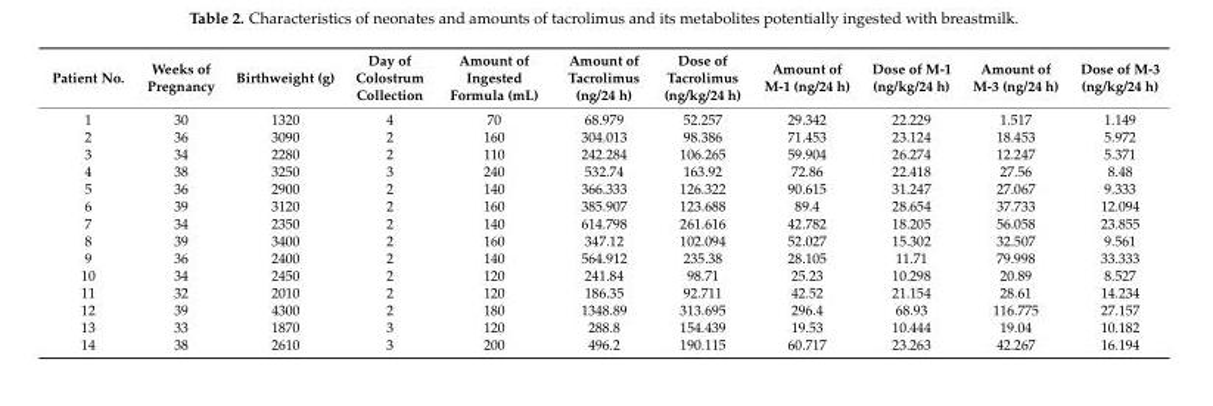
<table><thead><tr><td>Patient No.</td><td>Weeks of Pregnancy</td><td>Birthweight (g)</td><td>Day of Colostrum Collection</td><td>Amount of Ingested Formula (mL)</td><td>Amount of Tacrolimus (ng/24 h)</td><td>Dose of Tacrolimus (ng/kg/24 h)</td><td>Amount of M-1 (ng/24 h)</td><td>Dose of M-1 (ng/kg/24 h)</td><td>Amount of M-3 (ng/24 h)</td><td>Dose of M-3 (ng/kg/24 h)</td></tr></thead><tbody><tr><td>1</td><td>30</td><td>1320</td><td>4</td><td>70</td><td>68.979</td><td>52.257</td><td>29.342</td><td>22.229</td><td>1.517</td><td>1.149</td></tr><tr><td>2</td><td>36</td><td>3090</td><td>2</td><td>160</td><td>304.013</td><td>98.386</td><td>71.453</td><td>23.124</td><td>18.453</td><td>5.972</td></tr><tr><td>3</td><td>34</td><td>2280</td><td>2</td><td>110</td><td>242.284</td><td>106.265</td><td>59.904</td><td>26.274</td><td>12.247</td><td>5.371</td></tr><tr><td>4</td><td>38</td><td>3250</td><td>3</td><td>240</td><td>532.74</td><td>163.92</td><td>72.86</td><td>22.418</td><td>27.56</td><td>8.48</td></tr><tr><td>5</td><td>36</td><td>2900</td><td>2</td><td>140</td><td>366.333</td><td>126.322</td><td>90.615</td><td>31.247</td><td>27.067</td><td>9.333</td></tr><tr><td>6</td><td>39</td><td>3120</td><td>2</td><td>160</td><td>385.907</td><td>123.688</td><td>89.4</td><td>28.654</td><td>37.733</td><td>12.094</td></tr><tr><td>7</td><td>34</td><td>2350</td><td>2</td><td>140</td><td>614.798</td><td>261.616</td><td>42.782</td><td>18.205</td><td>56.058</td><td>23.855</td></tr><tr><td>8</td><td>39</td><td>3400</td><td>2</td><td>160</td><td>347.12</td><td>102.094</td><td>52.027</td><td>15.302</td><td>32.507</td><td>9.561</td></tr><tr><td>9</td><td>36</td><td>2400</td><td>2</td><td>140</td><td>564.912</td><td>235.38</td><td>28.105</td><td>11.71</td><td>79.998</td><td>33.333</td></tr><tr><td>10</td><td>34</td><td>2450</td><td>2</td><td>120</td><td>241.84</td><td>98.71</td><td>25.23</td><td>10.298</td><td>20.89</td><td>8.527</td></tr><tr><td>11</td><td>32</td><td>2010</td><td>2</td><td>120</td><td>186.35</td><td>92.711</td><td>42.52</td><td>21.154</td><td>28.61</td><td>14.234</td></tr><tr><td>12</td><td>39</td><td>4300</td><td>2</td><td>180</td><td>1348.89</td><td>313.695</td><td>296.4</td><td>68.93</td><td>116.775</td><td>27.157</td></tr><tr><td>13</td><td>33</td><td>1870</td><td>3</td><td>120</td><td>288.8</td><td>154.439</td><td>19.53</td><td>10.444</td><td>19.04</td><td>10.182</td></tr><tr><td>14</td><td>38</td><td>2610</td><td>3</td><td>200</td><td>496.2</td><td>190.115</td><td>60.717</td><td>23.263</td><td>42.267</td><td>16.194</td></tr></tbody></table>